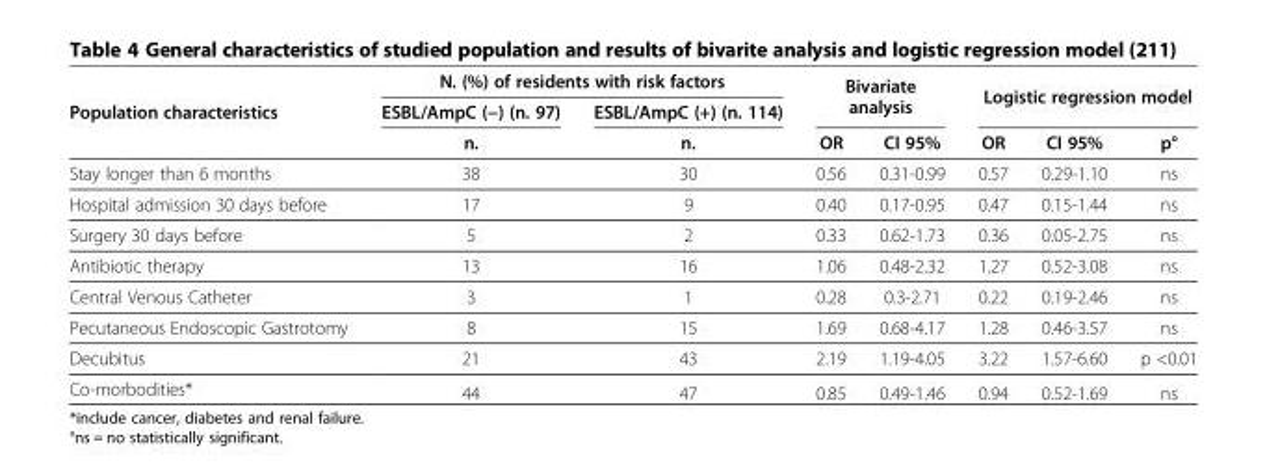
<table><thead><tr><td rowspan="3">Population characteristics</td><td colspan="2">N. (%) of residents with risk factors</td><td rowspan="2" colspan="2">Bivariate analysis</td><td rowspan="2" colspan="3">Logistic regression model</td></tr><tr><td rowspan="2">ESBL/AmpC (−) (n. 97) n.</td><td rowspan="2">ESBL/AmpC (+) (n. 114) n.</td></tr><tr><td>OR</td><td>CI 95%</td><td>OR</td><td>CI 95%</td><td>p°</td></tr></thead><tbody><tr><td>Stay longer than 6 months</td><td>38</td><td>30</td><td>0.56</td><td>0.31-0.99</td><td>0.57</td><td>0.29-1.10</td><td>ns</td></tr><tr><td>Hospital admission 30 days before</td><td>17</td><td>9</td><td>0.40</td><td>0.17-0.95</td><td>0.47</td><td>0.15-1.44</td><td>ns</td></tr><tr><td>Surgery 30 days before</td><td>5</td><td>2</td><td>0.33</td><td>0.62-1.73</td><td>0.36</td><td>0.05-2.75</td><td>ns</td></tr><tr><td>Antibiotic therapy</td><td>13</td><td>16</td><td>1.06</td><td>0.48-2.32</td><td>1.27</td><td>0.52-3.08</td><td>ns</td></tr><tr><td>Central Venous Catheter</td><td>3</td><td>1</td><td>0.28</td><td>0.3-2.71</td><td>0.22</td><td>0.19-2.46</td><td>ns</td></tr><tr><td>Pecutaneous Endoscopic Gastrotomy</td><td>8</td><td>15</td><td>1.69</td><td>0.68-4.17</td><td>1.28</td><td>0.46-3.57</td><td>ns</td></tr><tr><td>Decubitus</td><td>21</td><td>43</td><td>2.19</td><td>1.19-4.05</td><td>3.22</td><td>1.57-6.60</td><td>p &lt;0.01</td></tr><tr><td>Co-morbodities*</td><td>44</td><td>47</td><td>0.85</td><td>0.49-1.46</td><td>0.94</td><td>0.52-1.69</td><td>ns</td></tr></tbody></table>